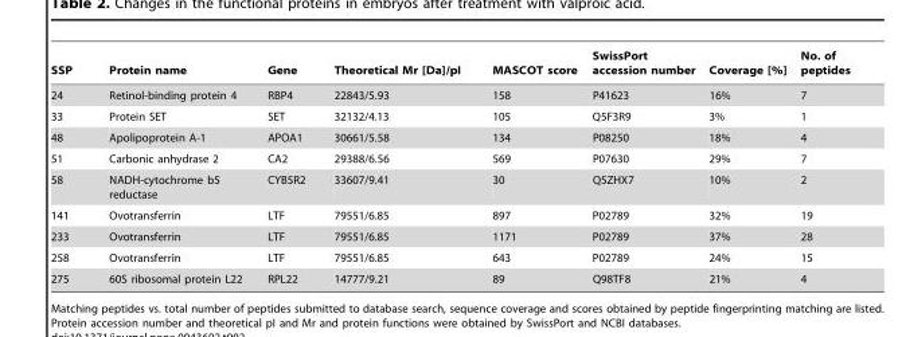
<table><thead><tr><td>SSP</td><td>Protein name</td><td>Gene</td><td>Theoretical Mr [Da]/pI</td><td>MASCOT score</td><td>SwissPort accession number</td><td>Coverage [%]</td><td>No. of peptides</td></tr></thead><tbody><tr><td>24</td><td>Retinol-binding protein 4</td><td>RBP4</td><td>22843/5.93</td><td>158</td><td>P41623</td><td>16%</td><td>7</td></tr><tr><td>33</td><td>Protein SET</td><td>SET</td><td>32132/4.13</td><td>105</td><td>Q5F3R9</td><td>3%</td><td>1</td></tr><tr><td>48</td><td>Apolipoprotein A-1</td><td>APOA1</td><td>30661/5.58</td><td>134</td><td>P08250</td><td>18%</td><td>4</td></tr><tr><td>51</td><td>Carbonic anhydrase 2</td><td>CA2</td><td>29388/6.56</td><td>569</td><td>P07630</td><td>29%</td><td>7</td></tr><tr><td>58</td><td>NADH-cytochrome b5 reductase</td><td>CYB5R2</td><td>33607/9.41</td><td>30</td><td>Q5ZHX7</td><td>10%</td><td>2</td></tr><tr><td>141</td><td>Ovotransferrin</td><td>LTF</td><td>79551/6.85</td><td>897</td><td>P02789</td><td>32%</td><td>19</td></tr><tr><td>233</td><td>Ovotransferrin</td><td>LTF</td><td>79551/6.85</td><td>1171</td><td>P02789</td><td>37%</td><td>28</td></tr><tr><td>258</td><td>Ovotransferrin</td><td>LTF</td><td>79551/6.85</td><td>643</td><td>P02789</td><td>24%</td><td>15</td></tr><tr><td>275</td><td>60S ribosomal protein L22</td><td>RPL22</td><td>14777/9.21</td><td>89</td><td>Q98TF8</td><td>21%</td><td>4</td></tr></tbody></table>